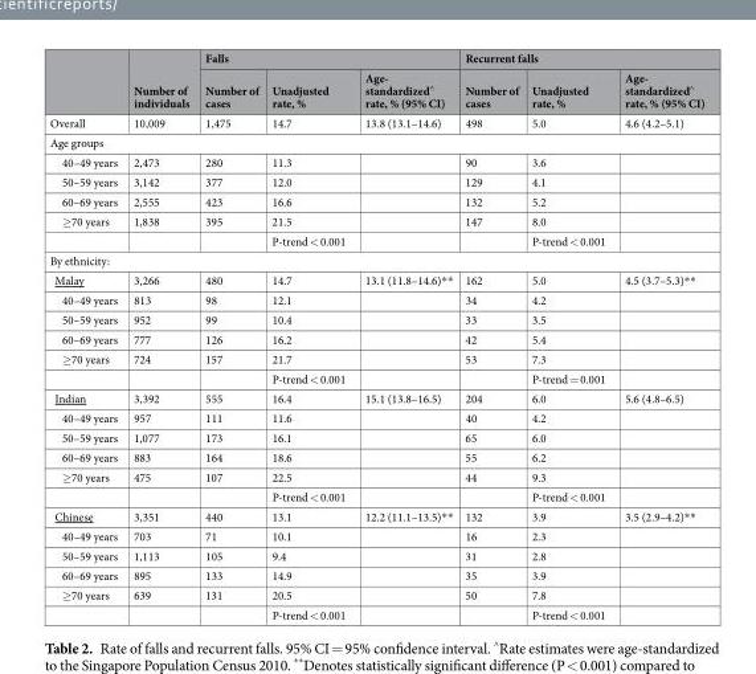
<table><thead><tr><td rowspan="2"></td><td rowspan="2">Number of individuals</td><td colspan="3">Falls</td><td colspan="3">Recurrent falls</td></tr><tr><td>Number of cases</td><td>Unadjusted rate, %</td><td>Age- standardized<sup>^</sup> rate, % (95% CI)</td><td>Number of cases</td><td>Unadjusted rate, %</td><td>Age- standardized<sup>^</sup> rate, % (95% CI)</td></tr></thead><tbody><tr><td>Overall</td><td>10,009</td><td>1,475</td><td>14.7</td><td>13.8 (13.1–14.6)</td><td>498</td><td>5.0</td><td>4.6 (4.2–5.1)</td></tr><tr><td colspan="8">Age groups</td></tr><tr><td>40–49 years</td><td>2,473</td><td>280</td><td>11.3</td><td></td><td>90</td><td>3.6</td><td></td></tr><tr><td>50–59 years</td><td>3,142</td><td>377</td><td>12.0</td><td></td><td>129</td><td>4.1</td><td></td></tr><tr><td>60–69 years</td><td>2,555</td><td>423</td><td>16.6</td><td></td><td>132</td><td>5.2</td><td></td></tr><tr><td rowspan="2">≥70 years</td><td>1,838</td><td>395</td><td>21.5</td><td></td><td>147</td><td>8.0</td><td></td></tr><tr><td></td><td></td><td>P-trend &lt; 0.001</td><td></td><td></td><td>P-trend &lt; 0.001</td><td></td></tr><tr><td colspan="8">By ethnicity:</td></tr><tr><td>Malay</td><td>3,266</td><td>480</td><td>14.7</td><td>13.1 (11.8–14.6)**</td><td>162</td><td>5.0</td><td>4.5 (3.7–5.3)**</td></tr><tr><td>40–49 years</td><td>813</td><td>98</td><td>12.1</td><td></td><td>34</td><td>4.2</td><td></td></tr><tr><td>50–59 years</td><td>952</td><td>99</td><td>10.4</td><td></td><td>33</td><td>3.5</td><td></td></tr><tr><td>60–69 years</td><td>777</td><td>126</td><td>16.2</td><td></td><td>42</td><td>5.4</td><td></td></tr><tr><td rowspan="2">≥70 years</td><td>724</td><td>157</td><td>21.7</td><td></td><td>53</td><td>7.3</td><td></td></tr><tr><td></td><td></td><td>P-trend &lt; 0.001</td><td></td><td></td><td>P-trend = 0.001</td><td></td></tr><tr><td>Indian</td><td>3,392</td><td>555</td><td>16.4</td><td>15.1 (13.8–16.5)</td><td>204</td><td>6.0</td><td>5.6 (4.8–6.5)</td></tr><tr><td>40–49 years</td><td>957</td><td>111</td><td>11.6</td><td></td><td>40</td><td>4.2</td><td></td></tr><tr><td>50–59 years</td><td>1,077</td><td>173</td><td>16.1</td><td></td><td>65</td><td>6.0</td><td></td></tr><tr><td>60–69 years</td><td>883</td><td>164</td><td>18.6</td><td></td><td>55</td><td>6.2</td><td></td></tr><tr><td rowspan="2">≥70 years</td><td>475</td><td>107</td><td>22.5</td><td></td><td>44</td><td>9.3</td><td></td></tr><tr><td></td><td></td><td>P-trend &lt; 0.001</td><td></td><td></td><td>P-trend &lt; 0.001</td><td></td></tr><tr><td>Chinese</td><td>3,351</td><td>440</td><td>13.1</td><td>12.2 (11.1–13.5)**</td><td>132</td><td>3.9</td><td>3.5 (2.9–4.2)**</td></tr><tr><td>40–49 years</td><td>703</td><td>71</td><td>10.1</td><td></td><td>16</td><td>2.3</td><td></td></tr><tr><td>50–59 years</td><td>1,113</td><td>105</td><td>9.4</td><td></td><td>31</td><td>2.8</td><td></td></tr><tr><td>60–69 years</td><td>895</td><td>133</td><td>14.9</td><td></td><td>35</td><td>3.9</td><td></td></tr><tr><td rowspan="2">≥70 years</td><td>639</td><td>131</td><td>20.5</td><td></td><td>50</td><td>7.8</td><td></td></tr><tr><td></td><td></td><td>P-trend &lt; 0.001</td><td></td><td></td><td>P-trend &lt; 0.001</td><td></td></tr></tbody></table>